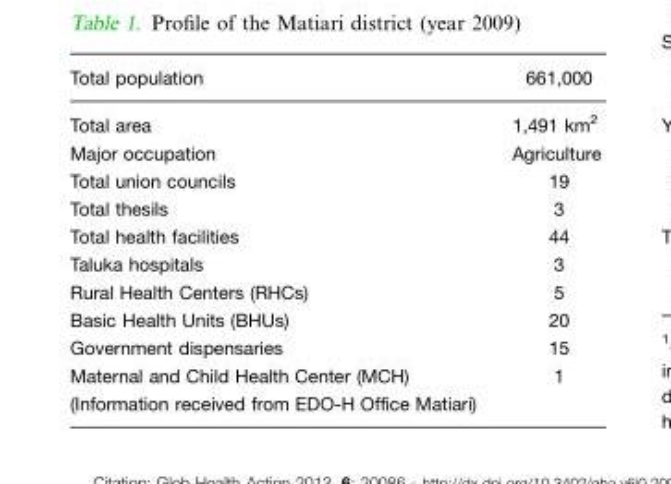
<table><thead><tr><td>Total population</td><td>661,000</td></tr></thead><tbody><tr><td>Total area</td><td>1,491 km<sup>2</sup></td></tr><tr><td>Major occupation</td><td>Agriculture</td></tr><tr><td>Total union councils</td><td>19</td></tr><tr><td>Total thesils</td><td>3</td></tr><tr><td>Total health facilities</td><td>44</td></tr><tr><td>Taluka hospitals</td><td>3</td></tr><tr><td>Rural Health Centers (RHCs)</td><td>5</td></tr><tr><td>Basic Health Units (BHUs)</td><td>20</td></tr><tr><td>Government dispensaries</td><td>15</td></tr><tr><td>Maternal and Child Health Center (MCH)</td><td>1</td></tr><tr><td>(Information received from EDO-H Office Matiari)</td><td></td></tr></tbody></table>